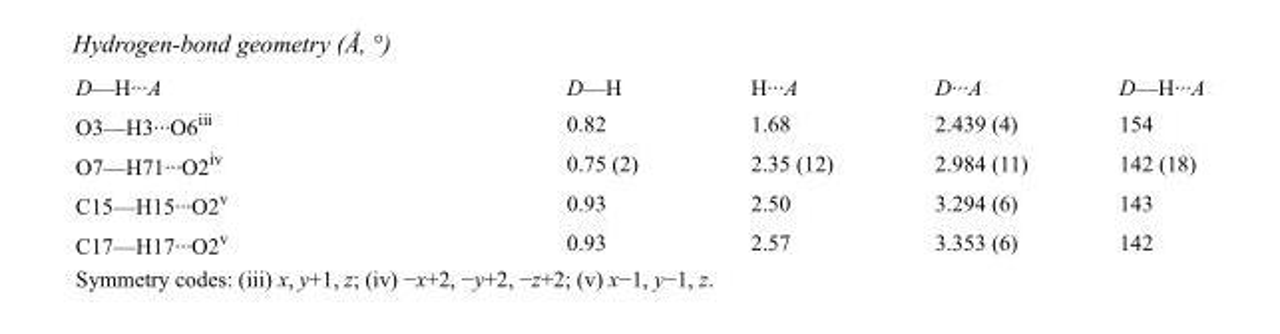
<table><tbody><tr><td>D—H···A</td><td>D—H</td><td>H···A</td><td>D···A</td><td>D—H···A</td></tr><tr><td>O3—H3···O6<sup>iii</sup></td><td>0.82</td><td>1.68</td><td>2.439 (4)</td><td>154</td></tr><tr><td>O7—H71···O2<sup>iv</sup></td><td>0.75 (2)</td><td>2.35 (12)</td><td>2.984 (11)</td><td>142 (18)</td></tr><tr><td>C15—H15···O2<sup>v</sup></td><td>0.93</td><td>2.50</td><td>3.294 (6)</td><td>143</td></tr><tr><td>C17—H17···O2<sup>v</sup></td><td>0.93</td><td>2.57</td><td>3.353 (6)</td><td>142</td></tr></tbody></table>